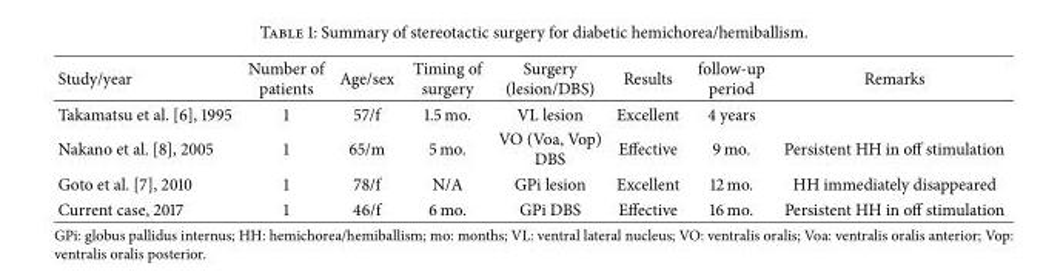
<table><thead><tr><td>Study/year</td><td>Number of patients</td><td>Age/sex</td><td>Timing of surgery</td><td>Surgery (lesion/DBS)</td><td>Results</td><td>follow-up period</td><td>Remarks</td></tr></thead><tbody><tr><td>Takamatsu et al. [6], 1995</td><td>1</td><td>57/f</td><td>1.5 mo.</td><td>VL lesion</td><td>Excellent</td><td>4 years</td><td></td></tr><tr><td>Nakano et al. [8], 2005</td><td>1</td><td>65/m</td><td>5 mo.</td><td>VO (Voa, Vop) DBS</td><td>Effective</td><td>9 mo.</td><td>Persistent HH in off stimulation</td></tr><tr><td>Goto et al. [7], 2010</td><td>1</td><td>78/f</td><td>N/A</td><td>GPi lesion</td><td>Excellent</td><td>12 mo.</td><td>HH immediately disappeared</td></tr><tr><td>Current case, 2017</td><td>1</td><td>46/f</td><td>6 mo.</td><td>GPi DBS</td><td>Effective</td><td>16 mo.</td><td>Persistent HH in off stimulation</td></tr></tbody></table>